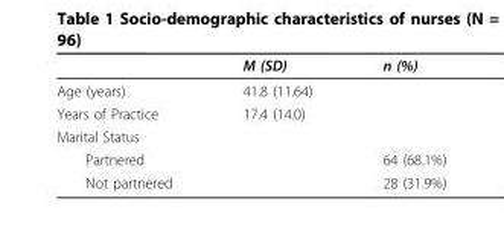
<table><thead><tr><td></td><td>M (SD)</td><td>n (%)</td></tr></thead><tbody><tr><td>Age (years)</td><td>41.8 (11.64)</td><td></td></tr><tr><td>Years of Practice</td><td>17.4 (14.0)</td><td></td></tr><tr><td colspan="3">Marital Status</td></tr><tr><td>Partnered</td><td></td><td>64 (68.1%)</td></tr><tr><td>Not partnered</td><td></td><td>28 (31.9%)</td></tr></tbody></table>